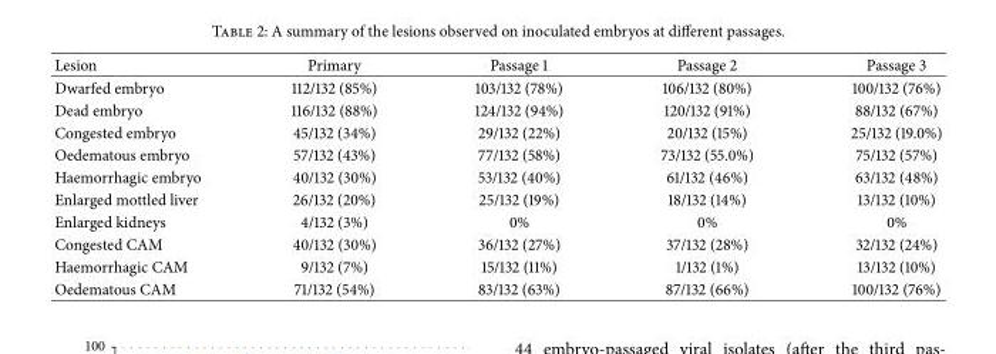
<table><thead><tr><td>Lesion</td><td>Primary</td><td>Passage 1</td><td>Passage 2</td><td>Passage 3</td></tr></thead><tbody><tr><td>Dwarfed embryo</td><td>112/132 (85%)</td><td>103/132 (78%)</td><td>106/132 (80%)</td><td>100/132 (76%)</td></tr><tr><td>Dead embryo</td><td>116/132 (88%)</td><td>124/132 (94%)</td><td>120/132 (91%)</td><td>88/132 (67%)</td></tr><tr><td>Congested embryo</td><td>45/132 (34%)</td><td>29/132 (22%)</td><td>20/132 (15%)</td><td>25/132 (19.0%)</td></tr><tr><td>Oedematous embryo</td><td>57/132 (43%)</td><td>77/132 (58%)</td><td>73/132 (55.0%)</td><td>75/132 (57%)</td></tr><tr><td>Haemorrhagic embryo</td><td>40/132 (30%)</td><td>53/132 (40%)</td><td>61/132 (46%)</td><td>63/132 (48%)</td></tr><tr><td>Enlarged mottled liver</td><td>26/132 (20%)</td><td>25/132 (19%)</td><td>18/132 (14%)</td><td>13/132 (10%)</td></tr><tr><td>Enlarged kidneys</td><td>4/132 (3%)</td><td>0%</td><td>0%</td><td>0%</td></tr><tr><td>Congested CAM</td><td>40/132 (30%)</td><td>36/132 (27%)</td><td>37/132 (28%)</td><td>32/132 (24%)</td></tr><tr><td>Haemorrhagic CAM</td><td>9/132 (7%)</td><td>15/132 (11%)</td><td>1/132 (1%)</td><td>13/132 (10%)</td></tr><tr><td>Oedematous CAM</td><td>71/132 (54%)</td><td>83/132 (63%)</td><td>87/132 (66%)</td><td>100/132 (76%)</td></tr></tbody></table>